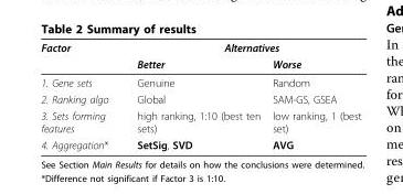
<table><thead><tr><td rowspan="2">Factor</td><td colspan="2">Alternatives</td></tr><tr><td>Better</td><td>Worse</td></tr></thead><tbody><tr><td>1. Gene sets</td><td>Genuine</td><td>Random</td></tr><tr><td>2. Ranking algo</td><td>Global</td><td>SAM-GS, GSEA</td></tr><tr><td>3. Sets forming features</td><td>high ranking, 1:10 (best ten sets)</td><td>low ranking, 1 (best set)</td></tr><tr><td>4. Aggregation*</td><td>SetSig, SVD</td><td>AVG</td></tr></tbody></table>